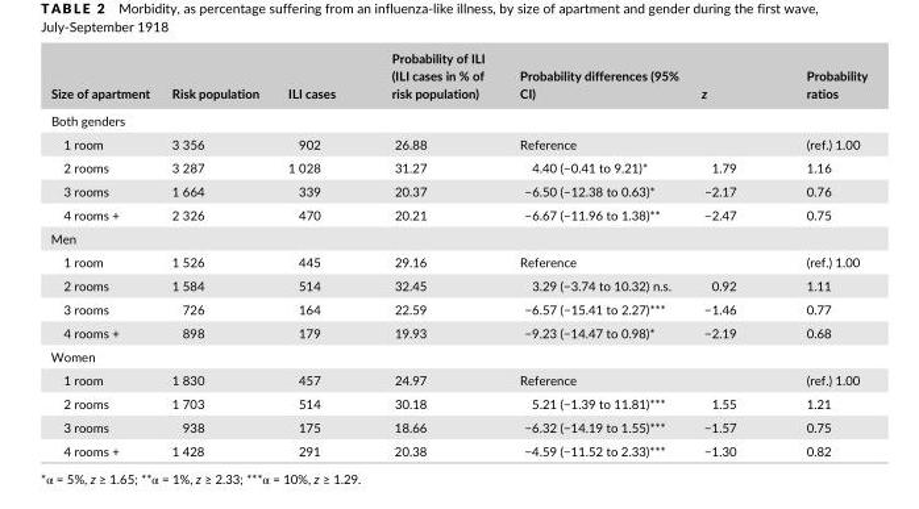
<table><thead><tr><td>Size of apartment</td><td>Risk population</td><td>ILI cases</td><td>Probability of ILI (ILI cases in % of risk population)</td><td>Probability differences (95% CI)</td><td>z</td><td>Probability ratios</td></tr></thead><tbody><tr><td colspan="7">Both genders</td></tr><tr><td>1 room</td><td>3 356</td><td>902</td><td>26.88</td><td>Reference</td><td></td><td>(ref.) 1.00</td></tr><tr><td>2 rooms</td><td>3 287</td><td>1 028</td><td>31.27</td><td>4.40 (−0.41 to 9.21)*</td><td>1.79</td><td>1.16</td></tr><tr><td>3 rooms</td><td>1 664</td><td>339</td><td>20.37</td><td>−6.50 (−12.38 to 0.63)*</td><td>−2.17</td><td>0.76</td></tr><tr><td>4 rooms +</td><td>2 326</td><td>470</td><td>20.21</td><td>−6.67 (−11.96 to 1.38)**</td><td>−2.47</td><td>0.75</td></tr><tr><td colspan="7">Men</td></tr><tr><td>1 room</td><td>1 526</td><td>445</td><td>29.16</td><td>Reference</td><td></td><td>(ref.) 1.00</td></tr><tr><td>2 rooms</td><td>1 584</td><td>514</td><td>32.45</td><td>3.29 (−3.74 to 10.32) n.s.</td><td>0.92</td><td>1.11</td></tr><tr><td>3 rooms</td><td>726</td><td>164</td><td>22.59</td><td>−6.57 (−15.41 to 2.27)***</td><td>−1.46</td><td>0.77</td></tr><tr><td>4 rooms +</td><td>898</td><td>179</td><td>19.93</td><td>−9.23 (−14.47 to 0.98)*</td><td>−2.19</td><td>0.68</td></tr><tr><td colspan="7">Women</td></tr><tr><td>1 room</td><td>1 830</td><td>457</td><td>24.97</td><td>Reference</td><td></td><td>(ref.) 1.00</td></tr><tr><td>2 rooms</td><td>1 703</td><td>514</td><td>30.18</td><td>5.21 (−1.39 to 11.81)***</td><td>1.55</td><td>1.21</td></tr><tr><td>3 rooms</td><td>938</td><td>175</td><td>18.66</td><td>−6.32 (−14.19 to 1.55)***</td><td>−1.57</td><td>0.75</td></tr><tr><td>4 rooms +</td><td>1 428</td><td>291</td><td>20.38</td><td>−4.59 (−11.52 to 2.33)***</td><td>−1.30</td><td>0.82</td></tr></tbody></table>